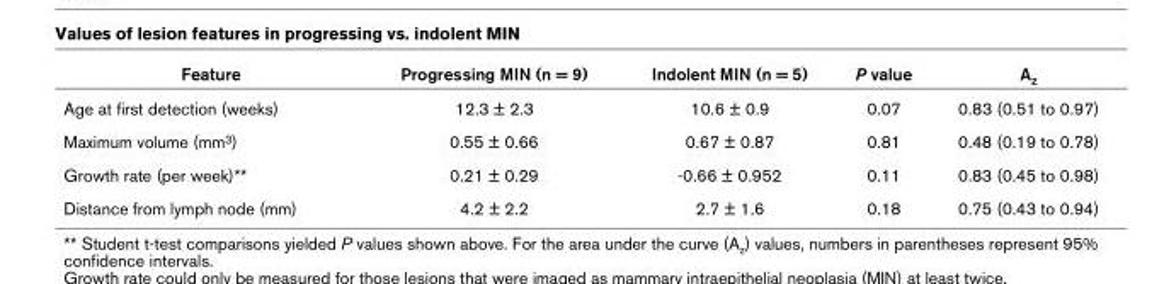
<table><thead><tr><td>Feature</td><td>Progressing MIN (n = 9)</td><td>Indolent MIN (n = 5)</td><td>P value</td><td>A<sub>z</sub></td></tr></thead><tbody><tr><td>Age at first detection (weeks)</td><td>12.3 ± 2.3</td><td>10.6 ± 0.9</td><td>0.07</td><td>0.83 (0.51 to 0.97)</td></tr><tr><td>Maximum volume (mm<sup>3</sup>)</td><td>0.55 ± 0.66</td><td>0.67 ± 0.87</td><td>0.81</td><td>0.48 (0.19 to 0.78)</td></tr><tr><td>Growth rate (per week)**</td><td>0.21 ± 0.29</td><td>-0.66 ± 0.952</td><td>0.11</td><td>0.83 (0.45 to 0.98)</td></tr><tr><td>Distance from lymph node (mm)</td><td>4.2 ± 2.2</td><td>2.7 ± 1.6</td><td>0.18</td><td>0.75 (0.43 to 0.94)</td></tr></tbody></table>